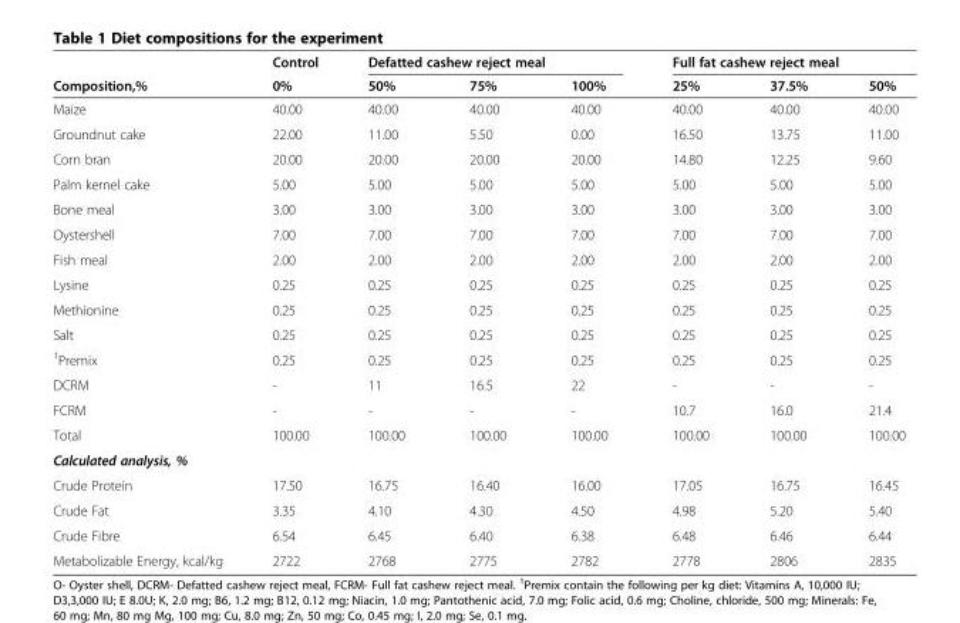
<table><thead><tr><td rowspan="2">Composition,%</td><td rowspan="2">Control 0%</td><td colspan="3">Defatted cashew reject meal</td><td colspan="3">Full fat cashew reject meal</td></tr><tr><td>50%</td><td>75%</td><td>100%</td><td>25%</td><td>37.5%</td><td>50%</td></tr></thead><tbody><tr><td>Maize</td><td>40.00</td><td>40.00</td><td>40.00</td><td>40.00</td><td>40.00</td><td>40.00</td><td>40.00</td></tr><tr><td>Groundnut cake</td><td>22.00</td><td>11.00</td><td>5.50</td><td>0.00</td><td>16.50</td><td>13.75</td><td>11.00</td></tr><tr><td>Corn bran</td><td>20.00</td><td>20.00</td><td>20.00</td><td>20.00</td><td>14.80</td><td>12.25</td><td>9.60</td></tr><tr><td>Palm kernel cake</td><td>5.00</td><td>5.00</td><td>5.00</td><td>5.00</td><td>5.00</td><td>5.00</td><td>5.00</td></tr><tr><td>Bone meal</td><td>3.00</td><td>3.00</td><td>3.00</td><td>3.00</td><td>3.00</td><td>3.00</td><td>3.00</td></tr><tr><td>Oystershell</td><td>7.00</td><td>7.00</td><td>7.00</td><td>7.00</td><td>7.00</td><td>7.00</td><td>7.00</td></tr><tr><td>Fish meal</td><td>2.00</td><td>2.00</td><td>2.00</td><td>2.00</td><td>2.00</td><td>2.00</td><td>2.00</td></tr><tr><td>Lysine</td><td>0.25</td><td>0.25</td><td>0.25</td><td>0.25</td><td>0.25</td><td>0.25</td><td>0.25</td></tr><tr><td>Methionine</td><td>0.25</td><td>0.25</td><td>0.25</td><td>0.25</td><td>0.25</td><td>0.25</td><td>0.25</td></tr><tr><td>Salt</td><td>0.25</td><td>0.25</td><td>0.25</td><td>0.25</td><td>0.25</td><td>0.25</td><td>0.25</td></tr><tr><td><sup>1</sup>Premix</td><td>0.25</td><td>0.25</td><td>0.25</td><td>0.25</td><td>0.25</td><td>0.25</td><td>0.25</td></tr><tr><td>DCRM</td><td>-</td><td>11</td><td>16.5</td><td>22</td><td>-</td><td>-</td><td>-</td></tr><tr><td>FCRM</td><td>-</td><td>-</td><td>-</td><td>-</td><td>10.7</td><td>16.0</td><td>21.4</td></tr><tr><td>Total</td><td>100.00</td><td>100.00</td><td>100.00</td><td>100.00</td><td>100.00</td><td>100.00</td><td>100.00</td></tr><tr><td colspan="8">Calculated analysis, %</td></tr><tr><td>Crude Protein</td><td>17.50</td><td>16.75</td><td>16.40</td><td>16.00</td><td>17.05</td><td>16.75</td><td>16.45</td></tr><tr><td>Crude Fat</td><td>3.35</td><td>4.10</td><td>4.30</td><td>4.50</td><td>4.98</td><td>5.20</td><td>5.40</td></tr><tr><td>Crude Fibre</td><td>6.54</td><td>6.45</td><td>6.40</td><td>6.38</td><td>6.48</td><td>6.46</td><td>6.44</td></tr><tr><td>Metabolizable Energy, kcal/kg</td><td>2722</td><td>2768</td><td>2775</td><td>2782</td><td>2778</td><td>2806</td><td>2835</td></tr></tbody></table>